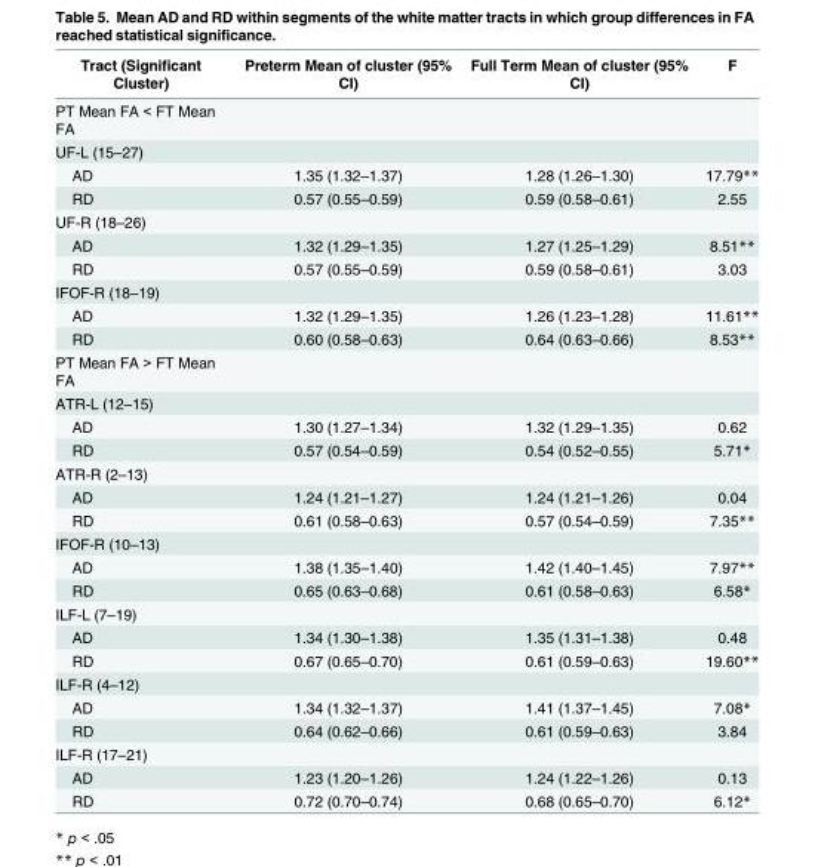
<table><thead><tr><td>Tract (Significant Cluster)</td><td>Preterm Mean of cluster (95% CI)</td><td>Full Term Mean of cluster (95% CI)</td><td>F</td></tr></thead><tbody><tr><td colspan="4">PT Mean FA &lt; FT Mean FA</td></tr><tr><td colspan="4">UF-L (15–27)</td></tr><tr><td>AD</td><td>1.35 (1.32–1.37)</td><td>1.28 (1.26–1.30)</td><td>17.79**</td></tr><tr><td>RD</td><td>0.57 (0.55–0.59)</td><td>0.59 (0.58–0.61)</td><td>2.55</td></tr><tr><td colspan="4">UF-R (18–26)</td></tr><tr><td>AD</td><td>1.32 (1.29–1.35)</td><td>1.27 (1.25–1.29)</td><td>8.51**</td></tr><tr><td>RD</td><td>0.57 (0.55–0.59)</td><td>0.59 (0.58–0.61)</td><td>3.03</td></tr><tr><td colspan="4">IFOF-R (18–19)</td></tr><tr><td>AD</td><td>1.32 (1.29–1.35)</td><td>1.26 (1.23–1.28)</td><td>11.61**</td></tr><tr><td>RD</td><td>0.60 (0.58–0.63)</td><td>0.64 (0.63–0.66)</td><td>8.53**</td></tr><tr><td colspan="4">PT Mean FA &gt; FT Mean FA</td></tr><tr><td colspan="4">ATR-L (12–15)</td></tr><tr><td>AD</td><td>1.30 (1.27–1.34)</td><td>1.32 (1.29–1.35)</td><td>0.62</td></tr><tr><td>RD</td><td>0.57 (0.54–0.59)</td><td>0.54 (0.52–0.55)</td><td>5.71*</td></tr><tr><td colspan="4">ATR-R (2–13)</td></tr><tr><td>AD</td><td>1.24 (1.21–1.27)</td><td>1.24 (1.21–1.26)</td><td>0.04</td></tr><tr><td>RD</td><td>0.61 (0.58–0.63)</td><td>0.57 (0.54–0.59)</td><td>7.35**</td></tr><tr><td colspan="4">IFOF-R (10–13)</td></tr><tr><td>AD</td><td>1.38 (1.35–1.40)</td><td>1.42 (1.40–1.45)</td><td>7.97**</td></tr><tr><td>RD</td><td>0.65 (0.63–0.68)</td><td>0.61 (0.58–0.63)</td><td>6.58*</td></tr><tr><td colspan="4">ILF-L (7–19)</td></tr><tr><td>AD</td><td>1.34 (1.30–1.38)</td><td>1.35 (1.31–1.38)</td><td>0.48</td></tr><tr><td>RD</td><td>0.67 (0.65–0.70)</td><td>0.61 (0.59–0.63)</td><td>19.60**</td></tr><tr><td colspan="4">ILF-R (4–12)</td></tr><tr><td>AD</td><td>1.34 (1.32–1.37)</td><td>1.41 (1.37–1.45)</td><td>7.08*</td></tr><tr><td>RD</td><td>0.64 (0.62–0.66)</td><td>0.61 (0.59–0.63)</td><td>3.84</td></tr><tr><td colspan="4">ILF-R (17–21)</td></tr><tr><td>AD</td><td>1.23 (1.20–1.26)</td><td>1.24 (1.22–1.26)</td><td>0.13</td></tr><tr><td>RD</td><td>0.72 (0.70–0.74)</td><td>0.68 (0.65–0.70)</td><td>6.12*</td></tr></tbody></table>